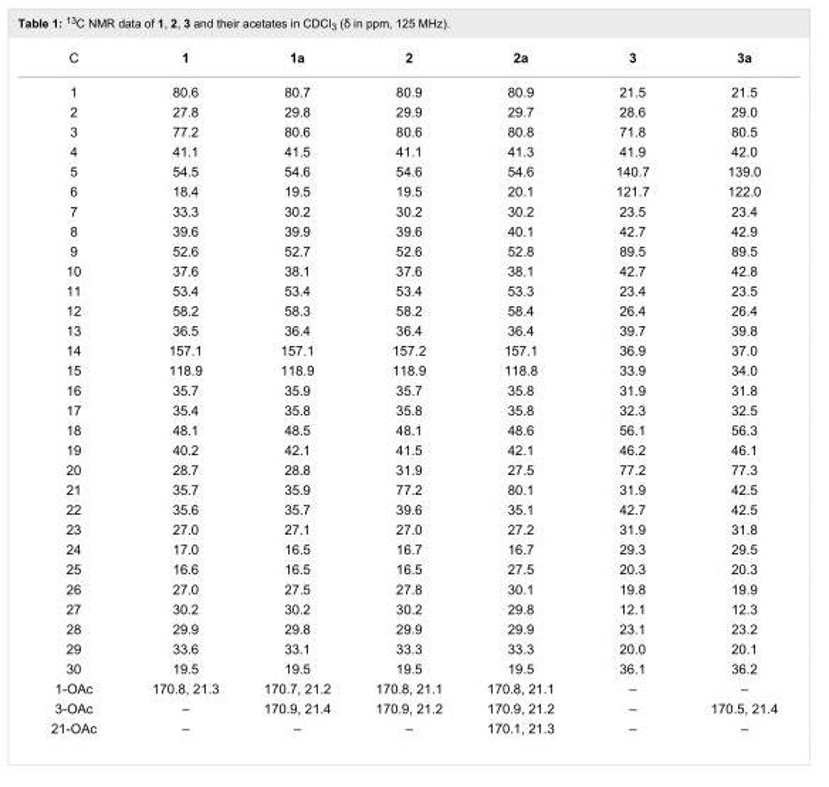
<table><tbody><tr><td>C</td><td>1</td><td>1a</td><td>2</td><td>2a</td><td>3</td><td>3a</td></tr><tr><td>1</td><td>80.6</td><td>80.7</td><td>80.9</td><td>80.9</td><td>21.5</td><td>21.5</td></tr><tr><td>2</td><td>27.8</td><td>29.8</td><td>29.9</td><td>29.7</td><td>28.6</td><td>29.0</td></tr><tr><td>3</td><td>77.2</td><td>80.6</td><td>80.6</td><td>80.8</td><td>71.8</td><td>80.5</td></tr><tr><td>4</td><td>41.1</td><td>41.5</td><td>41.1</td><td>41.3</td><td>41.9</td><td>42.0</td></tr><tr><td>5</td><td>54.5</td><td>54.6</td><td>54.6</td><td>54.6</td><td>140.7</td><td>139.0</td></tr><tr><td>6</td><td>18.4</td><td>19.5</td><td>19.5</td><td>20.1</td><td>121.7</td><td>122.0</td></tr><tr><td>7</td><td>33.3</td><td>30.2</td><td>30.2</td><td>30.2</td><td>23.5</td><td>23.4</td></tr><tr><td>8</td><td>39.6</td><td>39.9</td><td>39.6</td><td>40.1</td><td>42.7</td><td>42.9</td></tr><tr><td>9</td><td>52.6</td><td>52.7</td><td>52.6</td><td>52.8</td><td>89.5</td><td>89.5</td></tr><tr><td>10</td><td>37.6</td><td>38.1</td><td>37.6</td><td>38.1</td><td>42.7</td><td>42.8</td></tr><tr><td>11</td><td>53.4</td><td>53.4</td><td>53.4</td><td>53.3</td><td>23.4</td><td>23.5</td></tr><tr><td>12</td><td>58.2</td><td>58.3</td><td>58.2</td><td>58.4</td><td>26.4</td><td>26.4</td></tr><tr><td>13</td><td>36.5</td><td>36.4</td><td>36.4</td><td>36.4</td><td>39.7</td><td>39.8</td></tr><tr><td>14</td><td>157.1</td><td>157.1</td><td>157.2</td><td>157.1</td><td>36.9</td><td>37.0</td></tr><tr><td>15</td><td>118.9</td><td>118.9</td><td>118.9</td><td>118.8</td><td>33.9</td><td>34.0</td></tr><tr><td>16</td><td>35.7</td><td>35.9</td><td>35.7</td><td>35.8</td><td>31.9</td><td>31.8</td></tr><tr><td>17</td><td>35.4</td><td>35.8</td><td>35.8</td><td>35.8</td><td>32.3</td><td>32.5</td></tr><tr><td>18</td><td>48.1</td><td>48.5</td><td>48.1</td><td>48.6</td><td>56.1</td><td>56.3</td></tr><tr><td>19</td><td>40.2</td><td>42.1</td><td>41.5</td><td>42.1</td><td>46.2</td><td>46.1</td></tr><tr><td>20</td><td>28.7</td><td>28.8</td><td>31.9</td><td>27.5</td><td>77.2</td><td>77.3</td></tr><tr><td>21</td><td>35.7</td><td>35.9</td><td>77.2</td><td>80.1</td><td>31.9</td><td>42.5</td></tr><tr><td>22</td><td>35.6</td><td>35.7</td><td>39.6</td><td>35.1</td><td>42.7</td><td>42.5</td></tr><tr><td>23</td><td>27.0</td><td>27.1</td><td>27.0</td><td>27.2</td><td>31.9</td><td>31.8</td></tr><tr><td>24</td><td>17.0</td><td>16.5</td><td>16.7</td><td>16.7</td><td>29.3</td><td>29.5</td></tr><tr><td>25</td><td>16.6</td><td>16.5</td><td>16.5</td><td>27.5</td><td>20.3</td><td>20.3</td></tr><tr><td>26</td><td>27.0</td><td>27.5</td><td>27.8</td><td>30.1</td><td>19.8</td><td>19.9</td></tr><tr><td>27</td><td>30.2</td><td>30.2</td><td>30.2</td><td>29.8</td><td>12.1</td><td>12.3</td></tr><tr><td>28</td><td>29.9</td><td>29.8</td><td>29.9</td><td>29.9</td><td>23.1</td><td>23.2</td></tr><tr><td>29</td><td>33.6</td><td>33.1</td><td>33.3</td><td>33.3</td><td>20.0</td><td>20.1</td></tr><tr><td>30</td><td>19.5</td><td>19.5</td><td>19.5</td><td>19.5</td><td>36.1</td><td>36.2</td></tr><tr><td>1-OAc</td><td>170.8, 21.3</td><td>170.7, 21.2</td><td>170.8, 21.1</td><td>170.8, 21.1</td><td>–</td><td>–</td></tr><tr><td>3-OAc</td><td>–</td><td>170.9, 21.4</td><td>170.9, 21.2</td><td>170.9, 21.2</td><td>–</td><td>170.5, 21.4</td></tr><tr><td>21-OAc</td><td>–</td><td>–</td><td>–</td><td>170.1, 21.3</td><td>–</td><td>–</td></tr></tbody></table>